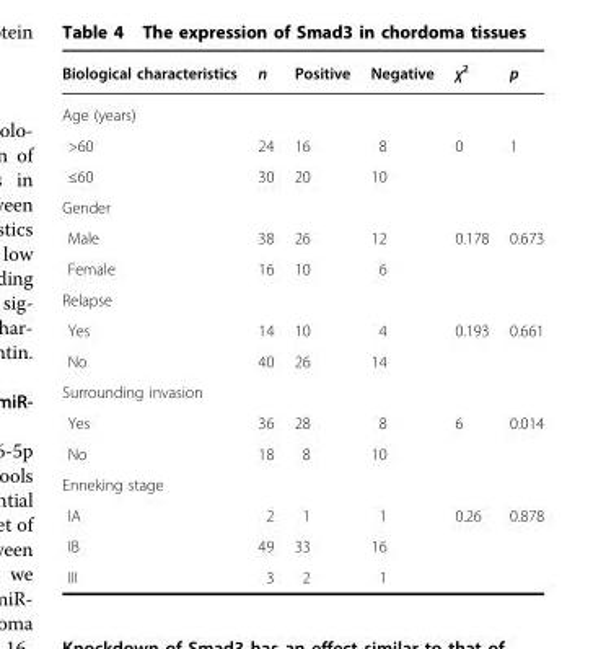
<table><thead><tr><td>Biological characteristics</td><td>n</td><td>Positive</td><td>Negative</td><td>χ<sup>2</sup></td><td>p</td></tr></thead><tbody><tr><td colspan="6">Age (years)</td></tr><tr><td>&gt;60</td><td>24</td><td>16</td><td>8</td><td rowspan="2">0</td><td rowspan="2">1</td></tr><tr><td>≤60</td><td>30</td><td>20</td><td>10</td></tr><tr><td colspan="6">Gender</td></tr><tr><td>Male</td><td>38</td><td>26</td><td>12</td><td rowspan="2">0.178</td><td rowspan="2">0.673</td></tr><tr><td>Female</td><td>16</td><td>10</td><td>6</td></tr><tr><td colspan="6">Relapse</td></tr><tr><td>Yes</td><td>14</td><td>10</td><td>4</td><td rowspan="2">0.193</td><td rowspan="2">0.661</td></tr><tr><td>No</td><td>40</td><td>26</td><td>14</td></tr><tr><td colspan="6">Surrounding invasion</td></tr><tr><td>Yes</td><td>36</td><td>28</td><td>8</td><td rowspan="2">6</td><td rowspan="2">0.014</td></tr><tr><td>No</td><td>18</td><td>8</td><td>10</td></tr><tr><td colspan="6">Enneking stage</td></tr><tr><td>IA</td><td>2</td><td>1</td><td>1</td><td rowspan="3">0.26</td><td rowspan="3">0.878</td></tr><tr><td>IB</td><td>49</td><td>33</td><td>16</td></tr><tr><td>III</td><td>3</td><td>2</td><td>1</td></tr></tbody></table>